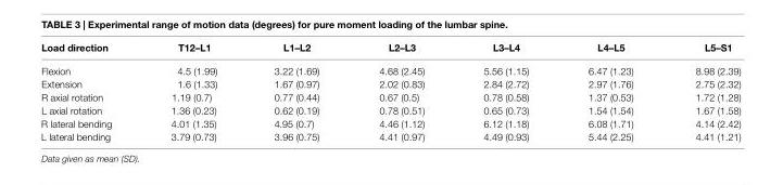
<table><thead><tr><td>load direction</td><td>T12–l1</td><td>l1–l2</td><td>l2–l3</td><td>l3–l4</td><td>l4–l5</td><td>l5–s1</td></tr></thead><tbody><tr><td>Flexion</td><td>4.5 (1.99)</td><td>3.22 (1.69)</td><td>4.68 (2.45)</td><td>5.56 (1.15)</td><td>6.47 (1.23)</td><td>8.98 (2.39)</td></tr><tr><td>Extension</td><td>1.6 (1.33)</td><td>1.67 (0.97)</td><td>2.02 (0.83)</td><td>2.84 (2.72)</td><td>2.97 (1.76)</td><td>2.75 (2.32)</td></tr><tr><td>R axial rotation</td><td>1.19 (0.7)</td><td>0.77 (0.44)</td><td>0.67 (0.5)</td><td>0.78 (0.58)</td><td>1.37 (0.53)</td><td>1.72 (1.28)</td></tr><tr><td>L axial rotation</td><td>1.36 (0.23)</td><td>0.62 (0.19)</td><td>0.78 (0.51)</td><td>0.65 (0.73)</td><td>1.54 (1.54)</td><td>1.67 (1.58)</td></tr><tr><td>R lateral bending</td><td>4.01 (1.35)</td><td>4.95 (0.7)</td><td>4.46 (1.12)</td><td>6.12 (1.18)</td><td>6.08 (1.71)</td><td>4.14 (2.42)</td></tr><tr><td>L lateral bending</td><td>3.79 (0.73)</td><td>3.96 (0.75)</td><td>4.41 (0.97)</td><td>4.49 (0.93)</td><td>5.44 (2.25)</td><td>4.41 (1.21)</td></tr></tbody></table>